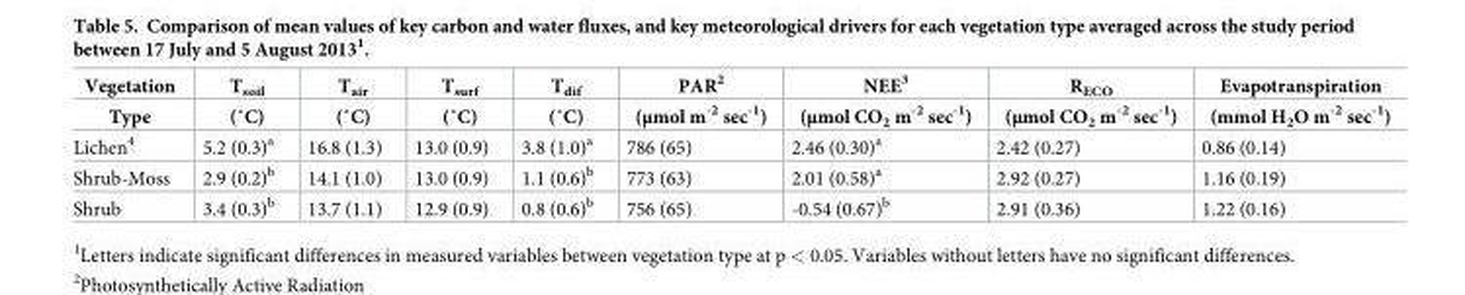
<table><thead><tr><td rowspan="2">Vegetation Type</td><td rowspan="2">Tsoil (˚C)</td><td rowspan="2">Tair (˚C)</td><td rowspan="2">Tsurf (˚C)</td><td rowspan="2">Tdif (˚C)</td><td rowspan="2">PAR<sup>2</sup> (μmol m<sup>-2</sup> sec<sup>-1</sup>)</td><td rowspan="2">NEE<sup>3</sup> (μmol CO<sub>2</sub> m<sup>-2</sup> sec<sup>-1</sup>)</td><td rowspan="2">R<sub>ECO</sub> (μmol CO<sub>2</sub> m<sup>-2</sup> sec<sup>-1</sup>)</td><td rowspan="2">Evapotranspiration (mmol H<sub>2</sub>O m<sup>-2</sup> sec<sup>-1</sup>)</td></tr><tr></tr></thead><tbody><tr><td>Lichen<sup>4</sup></td><td>5.2 (0.3)<sup>a</sup></td><td>16.8 (1.3)</td><td>13.0 (0.9)</td><td>3.8 (1.0)<sup>a</sup></td><td>786 (65)</td><td>2.46 (0.30)<sup>a</sup></td><td>2.42 (0.27)</td><td>0.86 (0.14)</td></tr><tr><td>Shrub-Moss</td><td>2.9 (0.2)<sup>b</sup></td><td>14.1 (1.0)</td><td>13.0 (0.9)</td><td>1.1 (0.6)<sup>b</sup></td><td>773 (63)</td><td>2.01 (0.58)<sup>a</sup></td><td>2.92 (0.27)</td><td>1.16 (0.19)</td></tr><tr><td>Shrub</td><td>3.4 (0.3)<sup>b</sup></td><td>13.7 (1.1)</td><td>12.9 (0.9)</td><td>0.8 (0.6)<sup>b</sup></td><td>756 (65)</td><td>-0.54 (0.67)<sup>b</sup></td><td>2.91 (0.36)</td><td>1.22 (0.16)</td></tr></tbody></table>